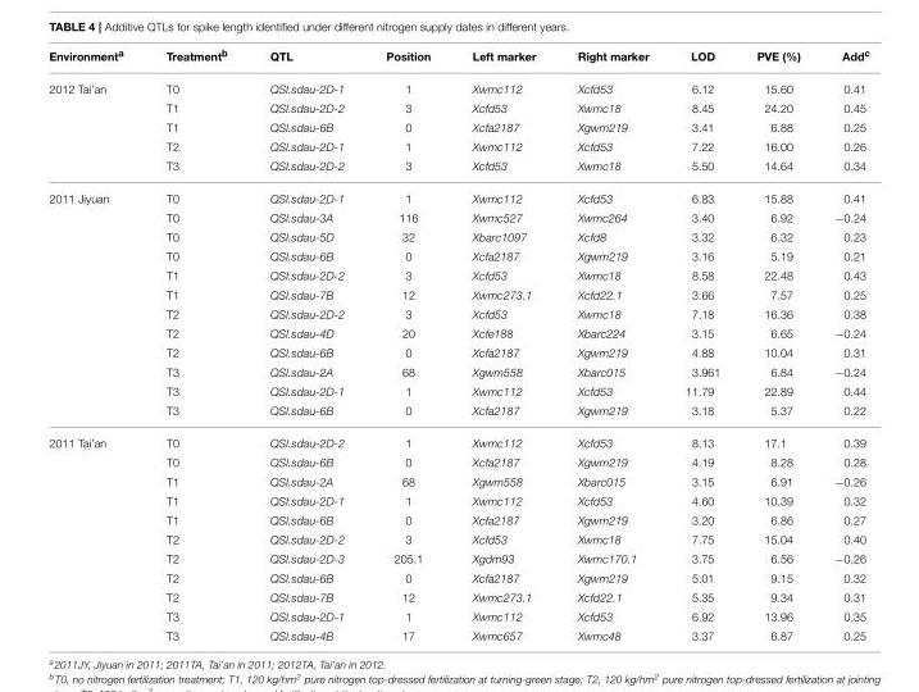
<table><thead><tr><td>Environment<sup>a</sup></td><td>Treatment<sup>b</sup></td><td>QTL</td><td>Position</td><td>Left marker</td><td>Right marker</td><td>LOD</td><td>PVE (%)</td><td>Add<sup>c</sup></td></tr></thead><tbody><tr><td rowspan="5">2012 Tai’an</td><td>T0</td><td>QSl.sdau-2D-1</td><td>1</td><td>Xwmc112</td><td>Xcfd53</td><td>6.12</td><td>15.60</td><td>0.41</td></tr><tr><td>T1</td><td>QSl.sdau-2D-2</td><td>3</td><td>Xcfd53</td><td>Xwmc18</td><td>8.45</td><td>24.20</td><td>0.45</td></tr><tr><td>T1</td><td>QSl.sdau-6B</td><td>0</td><td>Xcfa2187</td><td>Xgwm219</td><td>3.41</td><td>6.88</td><td>0.25</td></tr><tr><td>T2</td><td>QSl.sdau-2D-1</td><td>1</td><td>Xwmc112</td><td>Xcfd53</td><td>7.22</td><td>16.00</td><td>0.26</td></tr><tr><td>T3</td><td>QSl.sdau-2D-2</td><td>3</td><td>Xcfd53</td><td>Xwmc18</td><td>5.50</td><td>14.64</td><td>0.34</td></tr><tr><td rowspan="12">2011 Jiyuan</td><td>T0</td><td>QSl.sdau-2D-1</td><td>1</td><td>Xwmc112</td><td>Xcfd53</td><td>6.83</td><td>15.88</td><td>0.41</td></tr><tr><td>T0</td><td>QSl.sdau-3A</td><td>116</td><td>Xwmc527</td><td>Xwmc264</td><td>3.40</td><td>6.92</td><td>−0.24</td></tr><tr><td>T0</td><td>QSl.sdau-5D</td><td>32</td><td>Xbarc1097</td><td>Xcfd8</td><td>3.32</td><td>6.32</td><td>0.23</td></tr><tr><td>T0</td><td>QSl.sdau-6B</td><td>0</td><td>Xcfa2187</td><td>Xgwm219</td><td>3.16</td><td>5.19</td><td>0.21</td></tr><tr><td>T1</td><td>QSl.sdau-2D-2</td><td>3</td><td>Xcfd53</td><td>Xwmc18</td><td>8.58</td><td>22.48</td><td>0.43</td></tr><tr><td>T1</td><td>QSl.sdau-7B</td><td>12</td><td>Xwmc273.1</td><td>Xcfd22.1</td><td>3.66</td><td>7.57</td><td>0.25</td></tr><tr><td>T2</td><td>QSl.sdau-2D-2</td><td>3</td><td>Xcfd53</td><td>Xwmc18</td><td>7.18</td><td>16.36</td><td>0.38</td></tr><tr><td>T2</td><td>QSl.sdau-4D</td><td>20</td><td>Xcfe188</td><td>Xbarc224</td><td>3.15</td><td>6.65</td><td>−0.24</td></tr><tr><td>T2</td><td>QSl.sdau-6B</td><td>0</td><td>Xcfa2187</td><td>Xgwm219</td><td>4.88</td><td>10.04</td><td>0.31</td></tr><tr><td>T3</td><td>QSl.sdau-2A</td><td>68</td><td>Xgwm558</td><td>Xbarc015</td><td>3.961</td><td>6.84</td><td>−0.24</td></tr><tr><td>T3</td><td>QSl.sdau-2D-1</td><td>1</td><td>Xwmc112</td><td>Xcfd53</td><td>11.79</td><td>22.89</td><td>0.44</td></tr><tr><td>T3</td><td>QSl.sdau-6B</td><td>0</td><td>Xcfa2187</td><td>Xgwm219</td><td>3.18</td><td>5.37</td><td>0.22</td></tr><tr><td rowspan="11">2011 Tai’an</td><td>T0</td><td>QSl.sdau-2D-2</td><td>1</td><td>Xwmc112</td><td>Xcfd53</td><td>8.13</td><td>17.1</td><td>0.39</td></tr><tr><td>T0</td><td>QSl.sdau-6B</td><td>0</td><td>Xcfa2187</td><td>Xgwm219</td><td>4.19</td><td>8.28</td><td>0.28</td></tr><tr><td>T1</td><td>QSl.sdau-2A</td><td>68</td><td>Xgwm558</td><td>Xbarc015</td><td>3.15</td><td>6.91</td><td>−0.26</td></tr><tr><td>T1</td><td>QSl.sdau-2D-1</td><td>1</td><td>Xwmc112</td><td>Xcfd53</td><td>4.60</td><td>10.39</td><td>0.32</td></tr><tr><td>T1</td><td>QSl.sdau-6B</td><td>0</td><td>Xcfa2187</td><td>Xgwm219</td><td>3.20</td><td>6.86</td><td>0.27</td></tr><tr><td>T2</td><td>QSl.sdau-2D-2</td><td>3</td><td>Xcfd53</td><td>Xwmc18</td><td>7.75</td><td>15.04</td><td>0.40</td></tr><tr><td>T2</td><td>QSl.sdau-2D-3</td><td>205.1</td><td>Xgdm93</td><td>Xwmc170.1</td><td>3.75</td><td>6.56</td><td>−0.26</td></tr><tr><td>T2</td><td>QSl.sdau-6B</td><td>0</td><td>Xcfa2187</td><td>Xgwm219</td><td>5.01</td><td>9.15</td><td>0.32</td></tr><tr><td>T2</td><td>QSl.sdau-7B</td><td>12</td><td>Xwmc273.1</td><td>Xcfd22.1</td><td>5.35</td><td>9.34</td><td>0.31</td></tr><tr><td>T3</td><td>QSl.sdau-2D-1</td><td>1</td><td>Xwmc112</td><td>Xcfd53</td><td>6.92</td><td>13.96</td><td>0.35</td></tr><tr><td>T3</td><td>QSl.sdau-4B</td><td>17</td><td>Xwmc657</td><td>Xwmc48</td><td>3.37</td><td>6.87</td><td>0.25</td></tr></tbody></table>